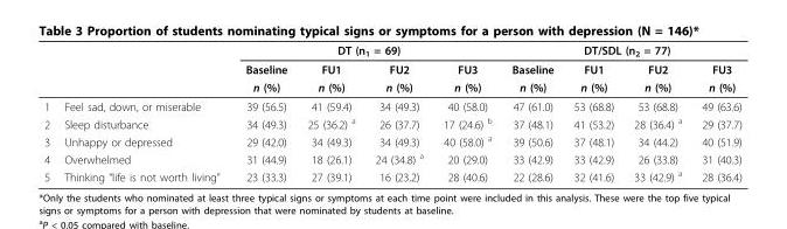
<table><thead><tr><td rowspan="3"></td><td rowspan="3"></td><td colspan="4">DT (n<sub>1</sub> = 69)</td><td colspan="4">DT/SDL (n<sub>2</sub> = 77)</td></tr><tr><td rowspan="2">Baseline n (%)</td><td rowspan="2">FU1 n (%)</td><td rowspan="2">FU2 n (%)</td><td rowspan="2">FU3 n (%)</td><td rowspan="2">Baseline n (%)</td><td rowspan="2">FU1 n (%)</td><td rowspan="2">FU2 n (%)</td><td rowspan="2">FU3 n (%)</td></tr><tr></tr></thead><tbody><tr><td>1</td><td>Feel sad, down, or miserable</td><td>39 (56.5)</td><td>41 (59.4)</td><td>34 (49.3)</td><td>40 (58.0)</td><td>47 (61.0)</td><td>53 (68.8)</td><td>53 (68.8)</td><td>49 (63.6)</td></tr><tr><td>2</td><td>Sleep disturbance</td><td>34 (49.3)</td><td>25 (36.2) <sup>a</sup></td><td>26 (37.7)</td><td>17 (24.6) <sup>b</sup></td><td>37 (48.1)</td><td>41 (53.2)</td><td>28 (36.4) <sup>a</sup></td><td>29 (37.7)</td></tr><tr><td>3</td><td>Unhappy or depressed</td><td>29 (42.0)</td><td>34 (49.3)</td><td>34 (49.3)</td><td>40 (58.0) <sup>a</sup></td><td>39 (50.6)</td><td>37 (48.1)</td><td>34 (44.2)</td><td>40 (51.9)</td></tr><tr><td>4</td><td>Overwhelmed</td><td>31 (44.9)</td><td>18 (26.1)</td><td>24 (34.8) <sup>a</sup></td><td>20 (29.0)</td><td>33 (42.9)</td><td>33 (42.9)</td><td>26 (33.8)</td><td>31 (40.3)</td></tr><tr><td>5</td><td>Thinking “life is not worth living”</td><td>23 (33.3)</td><td>27 (39.1)</td><td>16 (23.2)</td><td>28 (40.6)</td><td>22 (28.6)</td><td>32 (41.6)</td><td>33 (42.9) <sup>a</sup></td><td>28 (36.4)</td></tr></tbody></table>